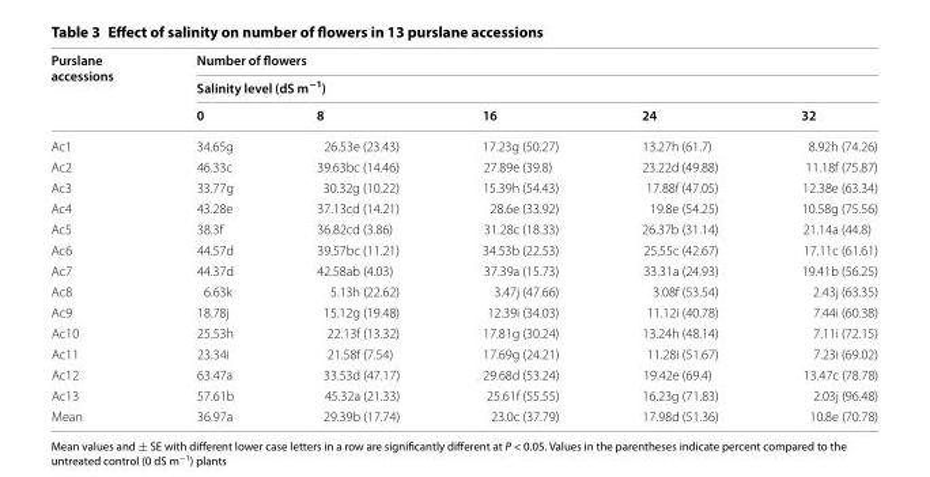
<table><thead><tr><td rowspan="3">Purslane accessions</td><td rowspan="2" colspan="5">Number of flowers Salinity level (dS m−1)</td></tr><tr></tr><tr><td>0</td><td>8</td><td>16</td><td>24</td><td>32</td></tr></thead><tbody><tr><td>Ac1</td><td>34.65g</td><td>26.53e (23.43)</td><td>17.23g (50.27)</td><td>13.27h (61.7)</td><td>8.92h (74.26)</td></tr><tr><td>Ac2</td><td>46.33c</td><td>39.63bc (14.46)</td><td>27.89e (39.8)</td><td>23.22d (49.88)</td><td>11.18f (75.87)</td></tr><tr><td>Ac3</td><td>33.77g</td><td>30.32g (10.22)</td><td>15.39h (54.43)</td><td>17.88f (47.05)</td><td>12.38e (63.34)</td></tr><tr><td>Ac4</td><td>43.28e</td><td>37.13cd (14.21)</td><td>28.6e (33.92)</td><td>19.8e (54.25)</td><td>10.58g (75.56)</td></tr><tr><td>Ac5</td><td>38.3f</td><td>36.82cd (3.86)</td><td>31.28c (18.33)</td><td>26.37b (31.14)</td><td>21.14a (44.8)</td></tr><tr><td>Ac6</td><td>44.57d</td><td>39.57bc (11.21)</td><td>34.53b (22.53)</td><td>25.55c (42.67)</td><td>17.11c (61.61)</td></tr><tr><td>Ac7</td><td>44.37d</td><td>42.58ab (4.03)</td><td>37.39a (15.73)</td><td>33.31a (24.93)</td><td>19.41b (56.25)</td></tr><tr><td>Ac8</td><td>6.63k</td><td>5.13h (22.62)</td><td>3.47j (47.66)</td><td>3.08f (53.54)</td><td>2.43j (63.35)</td></tr><tr><td>Ac9</td><td>18.78j</td><td>15.12g (19.48)</td><td>12.39i (34.03)</td><td>11.12i (40.78)</td><td>7.44i (60.38)</td></tr><tr><td>Ac10</td><td>25.53h</td><td>22.13f (13.32)</td><td>17.81g (30.24)</td><td>13.24h (48.14)</td><td>7.11i (72.15)</td></tr><tr><td>Ac11</td><td>23.34i</td><td>21.58f (7.54)</td><td>17.69g (24.21)</td><td>11.28i (51.67)</td><td>7.23i (69.02)</td></tr><tr><td>Ac12</td><td>63.47a</td><td>33.53d (47.17)</td><td>29.68d (53.24)</td><td>19.42e (69.4)</td><td>13.47c (78.78)</td></tr><tr><td>Ac13</td><td>57.61b</td><td>45.32a (21.33)</td><td>25.61f (55.55)</td><td>16.23g (71.83)</td><td>2.03j (96.48)</td></tr><tr><td>Mean</td><td>36.97a</td><td>29.39b (17.74)</td><td>23.0c (37.79)</td><td>17.98d (51.36)</td><td>10.8e (70.78)</td></tr></tbody></table>